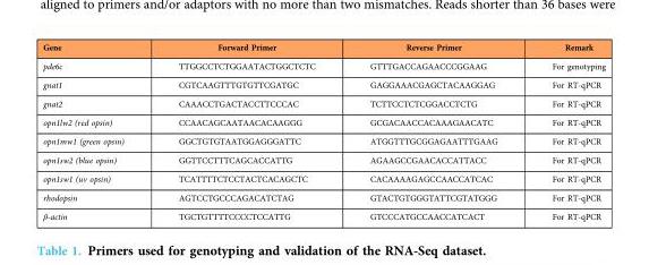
<table><thead><tr><td>Gene</td><td>Forward Primer</td><td>Reverse Primer</td><td>Remark</td></tr></thead><tbody><tr><td>pde6c</td><td>TTGGCCTCTGGAATACTGGCTCTC</td><td>GTTTGACCAGAACCCGGAAG</td><td>For genotyping</td></tr><tr><td>gnat1</td><td>CGTCAAGTTTGTGTTCGATGC</td><td>GAGGAAACGAGCTACAAGGAG</td><td>For RT-qPCR</td></tr><tr><td>gnat2</td><td>CAAACCTGACTACCTTCCCAC</td><td>TCTTCCTCTCGGACCTCTG</td><td>For RT-qPCR</td></tr><tr><td>opn1lw2 (red opsin)</td><td>CCAACAGCAATAACACAAGGG</td><td>GCGACAACCACAAAGAACATC</td><td>For RT-qPCR</td></tr><tr><td>opn1mw1 (green opsin)</td><td>GGCTGTGTAATGGAGGGATTC</td><td>ATGGTTTGCGGAGAATTTGAAG</td><td>For RT-qPCR</td></tr><tr><td>opn1sw2 (blue opsin)</td><td>GGTTCCTTTCAGCACCATTG</td><td>AGAAGCCGAACACCATTACC</td><td>For RT-qPCR</td></tr><tr><td>opn1sw1 (uv opsin)</td><td>TCATTTTCTCCTACTCACAGCTC</td><td>CACAAAAGAGCCAACCATCAC</td><td>For RT-qPCR</td></tr><tr><td>rhodopsin</td><td>AGTCCTGCCCAGACATCTAG</td><td>GTACTGTGGGTATTCGTATGGG</td><td>For RT-qPCR</td></tr><tr><td>β-actin</td><td>TGCTGTTTTCCCCTCCATTG</td><td>GTCCCATGCCAACCATCACT</td><td>For RT-qPCR</td></tr></tbody></table>